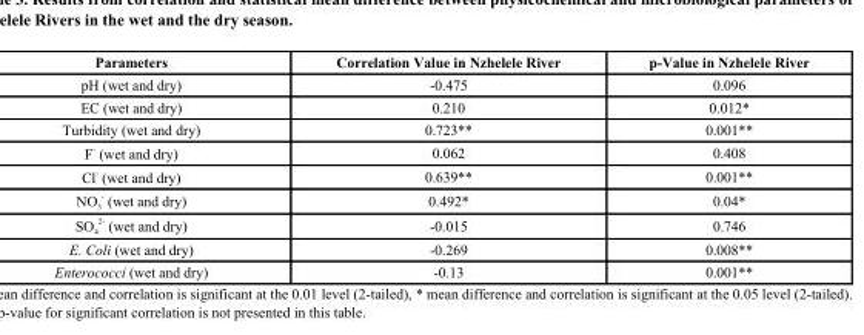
<table><thead><tr><td>Parameters</td><td>Correlation Value in Nzhelele River</td><td>p-Value in Nzhelele River</td></tr></thead><tbody><tr><td>pH (wet and dry)</td><td>-0.475</td><td>0.096</td></tr><tr><td>EC (wet and dry)</td><td>0.210</td><td>0.012*</td></tr><tr><td>Turbidity (wet and dry)</td><td>0.723**</td><td>0.001**</td></tr><tr><td>F <sup>-</sup> (wet and dry)</td><td>0.062</td><td>0.408</td></tr><tr><td>Cl <sup>-</sup> (wet and dry)</td><td>0.639**</td><td>0.001**</td></tr><tr><td>NO<sub>3</sub> <sup>-</sup> (wet and dry)</td><td>0.492*</td><td>0.04*</td></tr><tr><td>SO<sub>4</sub> <sup>2-</sup> (wet and dry)</td><td>-0.015</td><td>0.746</td></tr><tr><td>E. Coli (wet and dry)</td><td>-0.269</td><td>0.008**</td></tr><tr><td>Enterococci (wet and dry)</td><td>-0.13</td><td>0.001**</td></tr></tbody></table>